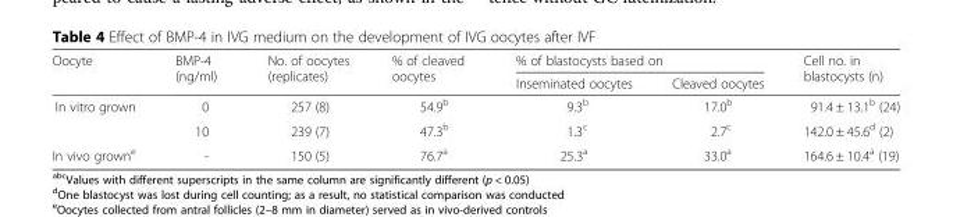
<table><thead><tr><td rowspan="2">Oocyte</td><td rowspan="2">BMP-4 (ng/ml)</td><td rowspan="2">No. of oocytes (replicates)</td><td rowspan="2">% of cleaved oocytes</td><td colspan="2">% of blastocysts based on</td><td rowspan="2">Cell no. in blastocysts (n)</td></tr><tr><td>Inseminated oocytes</td><td>Cleaved oocytes</td></tr></thead><tbody><tr><td rowspan="2">In vitro grown</td><td>0</td><td>257 (8)</td><td>54.9<sup>b</sup></td><td>9.3<sup>b</sup></td><td>17.0<sup>b</sup></td><td>91.4 ± 13.1<sup>b</sup> (24)</td></tr><tr><td>10</td><td>239 (7)</td><td>47.3<sup>b</sup></td><td>1.3<sup>c</sup></td><td>2.7<sup>c</sup></td><td>142.0 ± 45.6<sup>d</sup> (2)</td></tr><tr><td>In vivo grown<sup>e</sup></td><td>-</td><td>150 (5)</td><td>76.7<sup>a</sup></td><td>25.3<sup>a</sup></td><td>33.0<sup>a</sup></td><td>164.6 ± 10.4<sup>a</sup> (19)</td></tr></tbody></table>